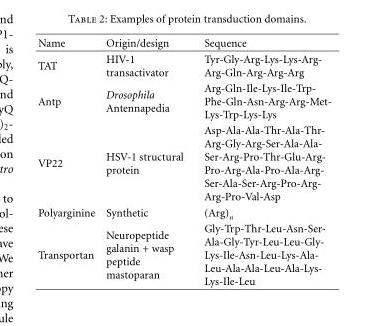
<table><thead><tr><td>Name</td><td>Origin/design</td><td>Sequence</td></tr></thead><tbody><tr><td>TAT</td><td>HIV-1 transactivator</td><td>Tyr-Gly-Arg-Lys-Lys-Arg- Arg-Gln-Arg-Arg-Arg</td></tr><tr><td>Antp</td><td>Drosophila Antennapedia</td><td>Arg-Gln-Ile-Lys-Ile-Trp- Phe-Gln-Asn-Arg-Arg-Met- Lys-Trp-Lys-Lys</td></tr><tr><td>VP22</td><td>HSV-1 structural protein</td><td>Asp-Ala-Ala-Thr-Ala-Thr- Arg-Gly-Arg-Ser-Ala-Ala- Ser-Arg-Pro-Thr-Glu-Arg- Pro-Arg-Ala-Pro-Ala-Arg- Ser-Ala-Ser-Arg-Pro-Arg- Arg-Pro-Val-Asp</td></tr><tr><td>Polyarginine</td><td>Synthetic</td><td>(Arg)<sub>n</sub></td></tr><tr><td>Transportan</td><td>Neuropeptide galanin + wasp peptide mastoparan</td><td>Gly-Trp-Thr-Leu-Asn-Ser- Ala-Gly-Tyr-Leu-Leu-Gly- Lys-Ile-Asn-Leu-Lys-Ala- Leu-Ala-Ala-Leu-Ala-Lys- Lys-Ile-Leu</td></tr></tbody></table>